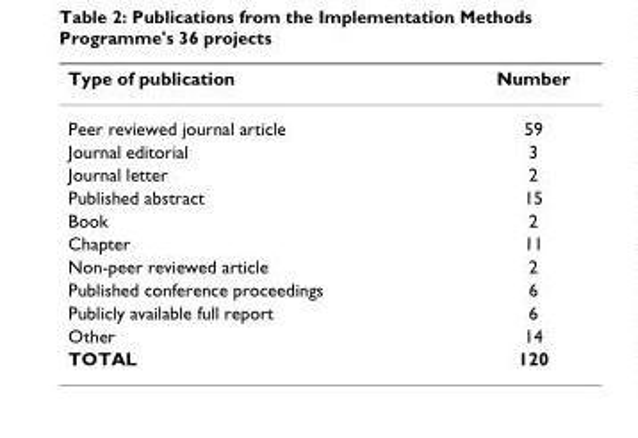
<table><thead><tr><td>Type of publication</td><td>Number</td></tr></thead><tbody><tr><td>Peer reviewed journal article</td><td>59</td></tr><tr><td>Journal editorial</td><td>3</td></tr><tr><td>Journal letter</td><td>2</td></tr><tr><td>Published abstract</td><td>15</td></tr><tr><td>Book</td><td>2</td></tr><tr><td>Chapter</td><td>11</td></tr><tr><td>Non-peer reviewed article</td><td>2</td></tr><tr><td>Published conference proceedings</td><td>6</td></tr><tr><td>Publicly available full report</td><td>6</td></tr><tr><td>Other</td><td>14</td></tr><tr><td>TOTAL</td><td>120</td></tr></tbody></table>